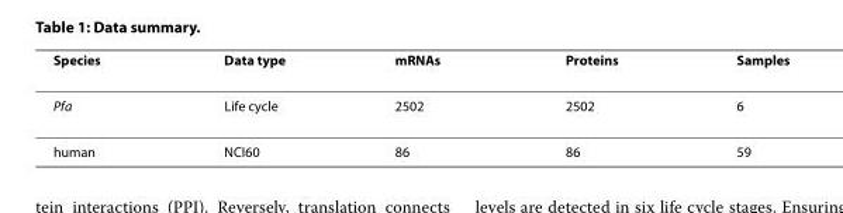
<table><thead><tr><td>Species</td><td>Data type</td><td>mRNAs</td><td>Proteins</td><td>Samples</td></tr></thead><tbody><tr><td>Pfa</td><td>Life cycle</td><td>2502</td><td>2502</td><td>6</td></tr><tr><td>human</td><td>NCI60</td><td>86</td><td>86</td><td>59</td></tr></tbody></table>